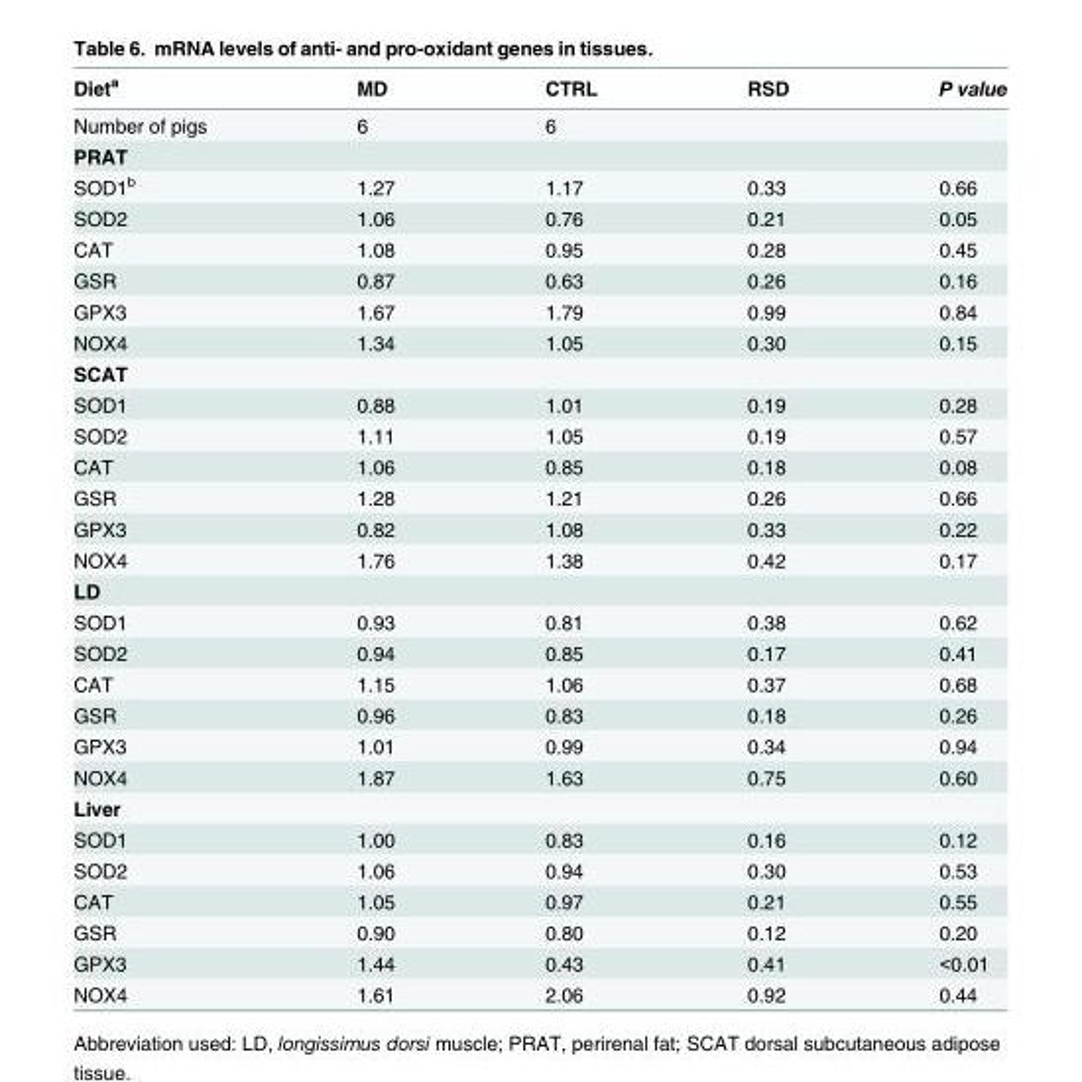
<table><thead><tr><td>Diet<sup>a</sup></td><td>MD</td><td>CTRL</td><td>RSD</td><td>P value</td></tr></thead><tbody><tr><td>Number of pigs</td><td>6</td><td>6</td><td></td><td></td></tr><tr><td colspan="5">PRAT</td></tr><tr><td>SOD1<sup>b</sup></td><td>1.27</td><td>1.17</td><td>0.33</td><td>0.66</td></tr><tr><td>SOD2</td><td>1.06</td><td>0.76</td><td>0.21</td><td>0.05</td></tr><tr><td>CAT</td><td>1.08</td><td>0.95</td><td>0.28</td><td>0.45</td></tr><tr><td>GSR</td><td>0.87</td><td>0.63</td><td>0.26</td><td>0.16</td></tr><tr><td>GPX3</td><td>1.67</td><td>1.79</td><td>0.99</td><td>0.84</td></tr><tr><td>NOX4</td><td>1.34</td><td>1.05</td><td>0.30</td><td>0.15</td></tr><tr><td colspan="5">SCAT</td></tr><tr><td>SOD1</td><td>0.88</td><td>1.01</td><td>0.19</td><td>0.28</td></tr><tr><td>SOD2</td><td>1.11</td><td>1.05</td><td>0.19</td><td>0.57</td></tr><tr><td>CAT</td><td>1.06</td><td>0.85</td><td>0.18</td><td>0.08</td></tr><tr><td>GSR</td><td>1.28</td><td>1.21</td><td>0.26</td><td>0.66</td></tr><tr><td>GPX3</td><td>0.82</td><td>1.08</td><td>0.33</td><td>0.22</td></tr><tr><td>NOX4</td><td>1.76</td><td>1.38</td><td>0.42</td><td>0.17</td></tr><tr><td colspan="5">LD</td></tr><tr><td>SOD1</td><td>0.93</td><td>0.81</td><td>0.38</td><td>0.62</td></tr><tr><td>SOD2</td><td>0.94</td><td>0.85</td><td>0.17</td><td>0.41</td></tr><tr><td>CAT</td><td>1.15</td><td>1.06</td><td>0.37</td><td>0.68</td></tr><tr><td>GSR</td><td>0.96</td><td>0.83</td><td>0.18</td><td>0.26</td></tr><tr><td>GPX3</td><td>1.01</td><td>0.99</td><td>0.34</td><td>0.94</td></tr><tr><td>NOX4</td><td>1.87</td><td>1.63</td><td>0.75</td><td>0.60</td></tr><tr><td colspan="5">Liver</td></tr><tr><td>SOD1</td><td>1.00</td><td>0.83</td><td>0.16</td><td>0.12</td></tr><tr><td>SOD2</td><td>1.06</td><td>0.94</td><td>0.30</td><td>0.53</td></tr><tr><td>CAT</td><td>1.05</td><td>0.97</td><td>0.21</td><td>0.55</td></tr><tr><td>GSR</td><td>0.90</td><td>0.80</td><td>0.12</td><td>0.20</td></tr><tr><td>GPX3</td><td>1.44</td><td>0.43</td><td>0.41</td><td>&lt;0.01</td></tr><tr><td>NOX4</td><td>1.61</td><td>2.06</td><td>0.92</td><td>0.44</td></tr></tbody></table>